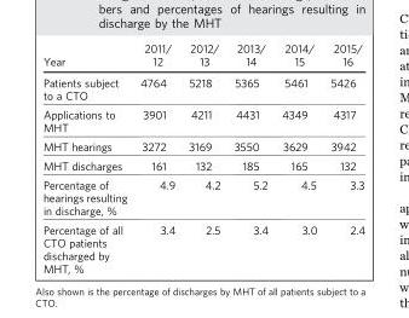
<table><thead><tr><td>Year</td><td>2011/ 12</td><td>2012/ 13</td><td>2013/ 14</td><td>2014/ 15</td><td>2015/ 16</td></tr></thead><tbody><tr><td>Patients subject to a CTO</td><td>4764</td><td>5218</td><td>5365</td><td>5461</td><td>5426</td></tr><tr><td>Applications to MHT</td><td>3901</td><td>4211</td><td>4431</td><td>4349</td><td>4317</td></tr><tr><td>MHT hearings</td><td>3272</td><td>3169</td><td>3550</td><td>3629</td><td>3942</td></tr><tr><td>MHT discharges</td><td>161</td><td>132</td><td>185</td><td>165</td><td>132</td></tr><tr><td>Percentage of hearings resulting in discharge, %</td><td>4.9</td><td>4.2</td><td>5.2</td><td>4.5</td><td>3.3</td></tr><tr><td>Percentage of all CTO patients discharged by MHT, %</td><td>3.4</td><td>2.5</td><td>3.4</td><td>3.0</td><td>2.4</td></tr></tbody></table>